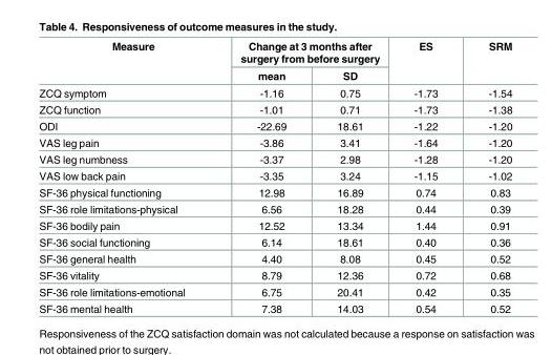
<table><thead><tr><td rowspan="2">Measure</td><td colspan="2">Change at 3 months after surgery from before surgery</td><td rowspan="2">ES</td><td rowspan="2">SRM</td></tr><tr><td>mean</td><td>SD</td></tr></thead><tbody><tr><td>ZCQ symptom</td><td>-1.16</td><td>0.75</td><td>-1.73</td><td>-1.54</td></tr><tr><td>ZCQ function</td><td>-1.01</td><td>0.71</td><td>-1.73</td><td>-1.38</td></tr><tr><td>ODI</td><td>-22.69</td><td>18.61</td><td>-1.22</td><td>-1.20</td></tr><tr><td>VAS leg pain</td><td>-3.86</td><td>3.41</td><td>-1.64</td><td>-1.20</td></tr><tr><td>VAS leg numbness</td><td>-3.37</td><td>2.98</td><td>-1.28</td><td>-1.20</td></tr><tr><td>VAS low back pain</td><td>-3.35</td><td>3.24</td><td>-1.15</td><td>-1.02</td></tr><tr><td>SF-36 physical functioning</td><td>12.98</td><td>16.89</td><td>0.74</td><td>0.83</td></tr><tr><td>SF-36 role limitations-physical</td><td>6.56</td><td>18.28</td><td>0.44</td><td>0.39</td></tr><tr><td>SF-36 bodily pain</td><td>12.52</td><td>13.34</td><td>1.44</td><td>0.91</td></tr><tr><td>SF-36 social functioning</td><td>6.14</td><td>18.61</td><td>0.40</td><td>0.36</td></tr><tr><td>SF-36 general health</td><td>4.40</td><td>8.08</td><td>0.45</td><td>0.52</td></tr><tr><td>SF-36 vitality</td><td>8.79</td><td>12.36</td><td>0.72</td><td>0.68</td></tr><tr><td>SF-36 role limitations-emotional</td><td>6.75</td><td>20.41</td><td>0.42</td><td>0.35</td></tr><tr><td>SF-36 mental health</td><td>7.38</td><td>14.03</td><td>0.54</td><td>0.52</td></tr></tbody></table>